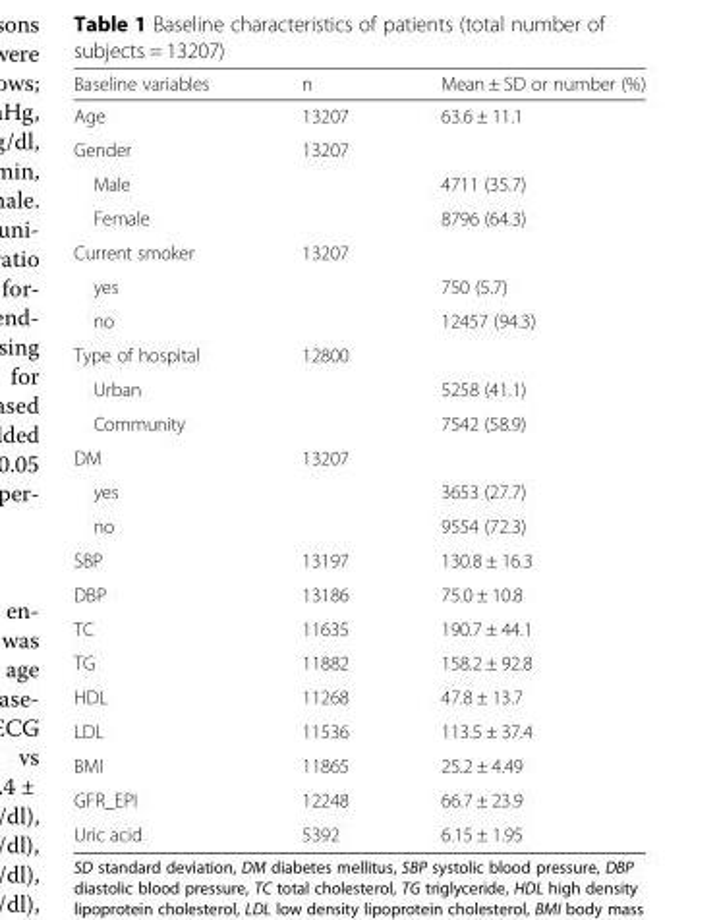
<table><thead><tr><td>Baseline variables</td><td>n</td><td>Mean ± SD or number (%)</td></tr></thead><tbody><tr><td>Age</td><td>13207</td><td>63.6 ± 11.1</td></tr><tr><td>Gender</td><td>13207</td><td></td></tr><tr><td>Male</td><td></td><td>4711 (35.7)</td></tr><tr><td>Female</td><td></td><td>8796 (64.3)</td></tr><tr><td>Current smoker</td><td>13207</td><td></td></tr><tr><td>yes</td><td></td><td>750 (5.7)</td></tr><tr><td>no</td><td></td><td>12457 (94.3)</td></tr><tr><td>Type of hospital</td><td>12800</td><td></td></tr><tr><td>Urban</td><td></td><td>5258 (41.1)</td></tr><tr><td>Community</td><td></td><td>7542 (58.9)</td></tr><tr><td>DM</td><td>13207</td><td></td></tr><tr><td>yes</td><td></td><td>3653 (27.7)</td></tr><tr><td>no</td><td></td><td>9554 (72.3)</td></tr><tr><td>SBP</td><td>13197</td><td>130.8 ± 16.3</td></tr><tr><td>DBP</td><td>13186</td><td>75.0 ± 10.8</td></tr><tr><td>TC</td><td>11635</td><td>190.7 ± 44.1</td></tr><tr><td>TG</td><td>11882</td><td>158.2 ± 92.8</td></tr><tr><td>HDL</td><td>11268</td><td>47.8 ± 13.7</td></tr><tr><td>LDL</td><td>11536</td><td>113.5 ± 37.4</td></tr><tr><td>BMI</td><td>11865</td><td>25.2 ± 4.49</td></tr><tr><td>GFR_EPI</td><td>12248</td><td>66.7 ± 23.9</td></tr><tr><td>Uric acid</td><td>5392</td><td>6.15 ± 1.95</td></tr></tbody></table>